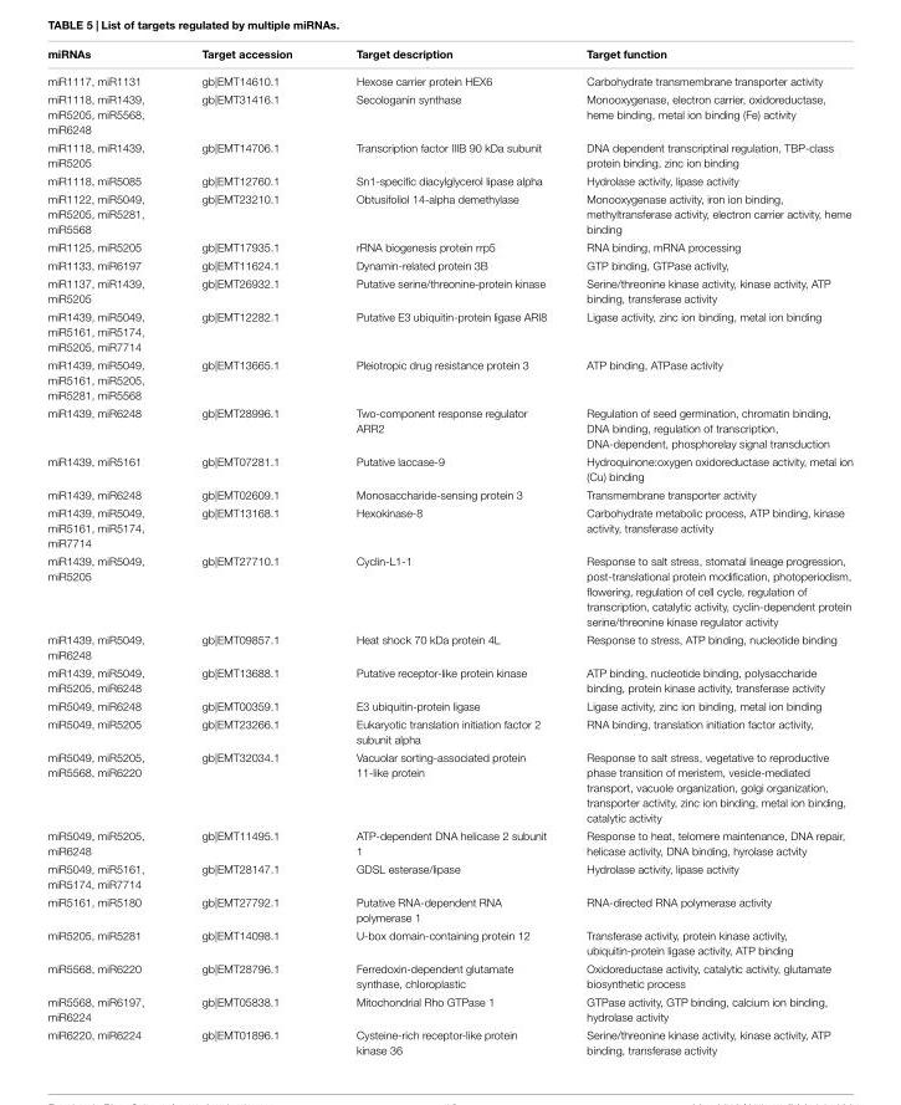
<table><thead><tr><td>miRNAs</td><td>Target accession</td><td>Target description</td><td>Target function</td></tr></thead><tbody><tr><td>miR1117, miR1131</td><td>gb|EMT14610.1</td><td>Hexose carrier protein HEX6</td><td>Carbohydrate transmembrane transporter activity</td></tr><tr><td>miR1118, miR1439, miR5205, miR5568, miR6248</td><td>gb|EMT31416.1</td><td>Secologanin synthase</td><td>Monooxygenase, electron carrier, oxidoreductase, heme binding, metal ion binding (Fe) activity</td></tr><tr><td>miR1118, miR1439, miR5205</td><td>gb|EMT14706.1</td><td>Transcription factor IIIB 90 kDa subunit</td><td>DNA dependent transcriptinal regulation, TBP-class protein binding, zinc ion binding</td></tr><tr><td>miR1118, miR5085</td><td>gb|EMT12760.1</td><td>Sn1-specific diacylglycerol lipase alpha</td><td>Hydrolase activity, lipase activity</td></tr><tr><td>miR1122, miR5049, miR5205, miR5281, miR5568</td><td>gb|EMT23210.1</td><td>Obtusifoliol 14-alpha demethylase</td><td>Monooxygenase activity, iron ion binding, methyltransferase activity, electron carrier activity, heme binding</td></tr><tr><td>miR1125, miR5205</td><td>gb|EMT17935.1</td><td>rRNA biogenesis protein rrp5</td><td>RNA binding, mRNA processing</td></tr><tr><td>miR1133, miR6197</td><td>gb|EMT11624.1</td><td>Dynamin-related protein 3B</td><td>GTP binding, GTPase activity,</td></tr><tr><td>miR1137, miR1439, miR5205</td><td>gb|EMT26932.1</td><td>Putative serine/threonine-protein kinase</td><td>Serine/threonine kinase activity, kinase activity, ATP binding, transferase activity</td></tr><tr><td>miR1439, miR5049, miR5161, miR5174, miR5205, miR7714</td><td>gb|EMT12282.1</td><td>Putative E3 ubiquitin-protein ligase ARI8</td><td>Ligase activity, zinc ion binding, metal ion binding</td></tr><tr><td>miR1439, miR5049, miR5161, miR5205, miR5281, miR5568</td><td>gb|EMT13665.1</td><td>Pleiotropic drug resistance protein 3</td><td>ATP binding, ATPase activity</td></tr><tr><td>miR1439, miR6248</td><td>gb|EMT28996.1</td><td>Two-component response regulator ARR2</td><td>Regulation of seed germination, chromatin binding, DNA binding, regulation of transcription, DNA-dependent, phosphorelay signal transduction</td></tr><tr><td>miR1439, miR5161</td><td>gb|EMT07281.1</td><td>Putative laccase-9</td><td>Hydroquinone:oxygen oxidoreductase activity, metal ion (Cu) binding</td></tr><tr><td>miR1439, miR6248</td><td>gb|EMT02609.1</td><td>Monosaccharide-sensing protein 3</td><td>Transmembrane transporter activity</td></tr><tr><td>miR1439, miR5049, miR5161, miR5174, miR7714</td><td>gb|EMT13168.1</td><td>Hexokinase-8</td><td>Carbohydrate metabolic process, ATP binding, kinase activity, transferase activity</td></tr><tr><td>miR1439, miR5049, miR5205</td><td>gb|EMT27710.1</td><td>Cyclin-L1-1</td><td>Response to salt stress, stomatal lineage progression, post-translational protein modification, photoperiodism, flowering, regulation of cell cycle, regulation of transcription, catalytic activity, cyclin-dependent protein serine/threonine kinase regulator activity</td></tr><tr><td>miR1439, miR5049, miR6248</td><td>gb|EMT09857.1</td><td>Heat shock 70 kDa protein 4L</td><td>Response to stress, ATP binding, nucleotide binding</td></tr><tr><td>miR1439, miR5049, miR5205, miR6248</td><td>gb|EMT13688.1</td><td>Putative receptor-like protein kinase</td><td>ATP binding, nucleotide binding, polysaccharide binding, protein kinase activity, transferase activity</td></tr><tr><td>miR5049, miR6248</td><td>gb|EMT00359.1</td><td>E3 ubiquitin-protein ligase</td><td>Ligase activity, zinc ion binding, metal ion binding</td></tr><tr><td>miR5049, miR5205</td><td>gb|EMT23266.1</td><td>Eukaryotic translation initiation factor 2 subunit alpha</td><td>RNA binding, translation initiation factor activity,</td></tr><tr><td>miR5049, miR5205, miR5568, miR6220</td><td>gb|EMT32034.1</td><td>Vacuolar sorting-associated protein 11-like protein</td><td>Response to salt stress, vegetative to reproductive phase transition of meristem, vesicle-mediated transport, vacuole organization, golgi organization, transporter activity, zinc ion binding, metal ion binding, catalytic activity</td></tr><tr><td>miR5049, miR5205, miR6248</td><td>gb|EMT11495.1</td><td>ATP-dependent DNA helicase 2 subunit 1</td><td>Response to heat, telomere maintenance, DNA repair, helicase activity, DNA binding, hyrolase actvity</td></tr><tr><td>miR5049, miR5161, miR5174, miR7714</td><td>gb|EMT28147.1</td><td>GDSL esterase/lipase</td><td>Hydrolase activity, lipase activity</td></tr><tr><td>miR5161, miR5180</td><td>gb|EMT27792.1</td><td>Putative RNA-dependent RNA polymerase 1</td><td>RNA-directed RNA polymerase activity</td></tr><tr><td>miR5205, miR5281</td><td>gb|EMT14098.1</td><td>U-box domain-containing protein 12</td><td>Transferase activity, protein kinase activity, ubiquitin-protein ligase activity, ATP binding</td></tr><tr><td>miR5568, miR6220</td><td>gb|EMT28796.1</td><td>Ferredoxin-dependent glutamate synthase, chloroplastic</td><td>Oxidoreductase activity, catalytic activity, glutamate biosynthetic process</td></tr><tr><td>miR5568, miR6197, miR6224</td><td>gb|EMT05838.1</td><td>Mitochondrial Rho GTPase 1</td><td>GTPase activity, GTP binding, calcium ion binding, hydrolase activity</td></tr><tr><td>miR6220, miR6224</td><td>gb|EMT01896.1</td><td>Cysteine-rich receptor-like protein kinase 36</td><td>Serine/threonine kinase activity, kinase activity, ATP binding, transferase activity</td></tr></tbody></table>